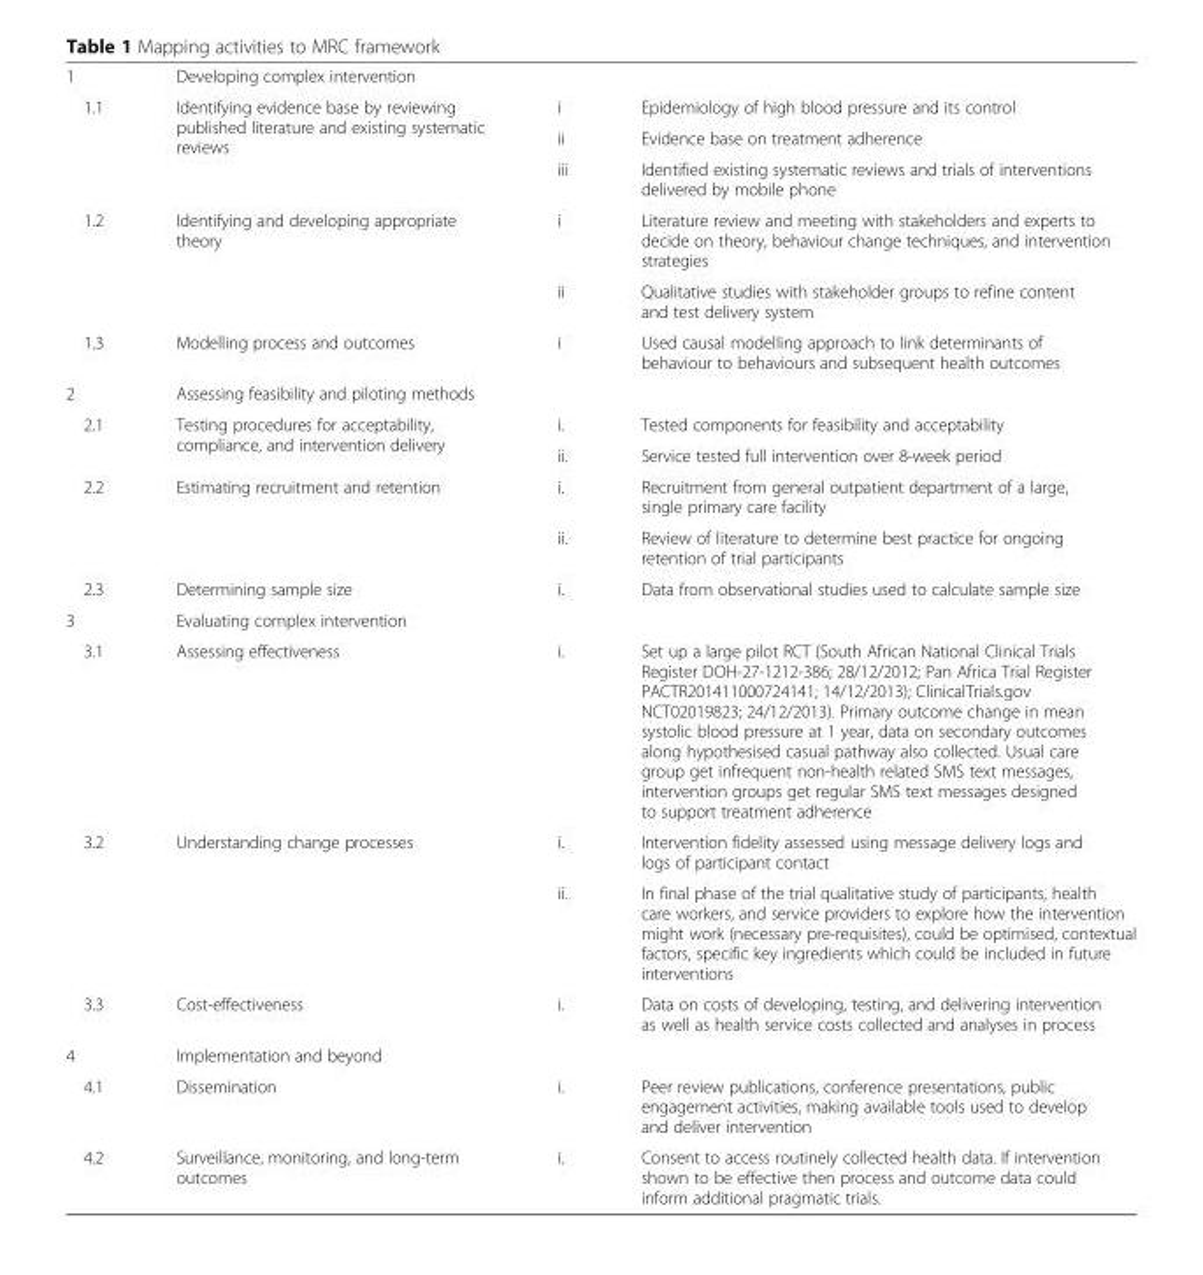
<table><tbody><tr><td>1</td><td colspan="3">Developing complex intervention</td></tr><tr><td rowspan="3">1.1</td><td rowspan="3">Identifying evidence base by reviewing published literature and existing systematic reviews</td><td>i</td><td>Epidemiology of high blood pressure and its control</td></tr><tr><td>ii</td><td>Evidence base on treatment adherence</td></tr><tr><td>iii</td><td>Identified existing systematic reviews and trials of interventions delivered by mobile phone</td></tr><tr><td rowspan="2">1.2</td><td rowspan="2">Identifying and developing appropriate theory</td><td>i</td><td>Literature review and meeting with stakeholders and experts to decide on theory, behaviour change techniques, and intervention strategies</td></tr><tr><td>ii</td><td>Qualitative studies with stakeholder groups to refine content and test delivery system</td></tr><tr><td>1.3</td><td>Modelling process and outcomes</td><td>i</td><td>Used causal modelling approach to link determinants of behaviour to behaviours and subsequent health outcomes</td></tr><tr><td>2</td><td colspan="3">Assessing feasibility and piloting methods</td></tr><tr><td rowspan="2">2.1</td><td rowspan="2">Testing procedures for acceptability, compliance, and intervention delivery</td><td>i.</td><td>Tested components for feasibility and acceptability</td></tr><tr><td>ii.</td><td>Service tested full intervention over 8-week period</td></tr><tr><td rowspan="2">2.2</td><td rowspan="2">Estimating recruitment and retention</td><td>i.</td><td>Recruitment from general outpatient department of a large, single primary care facility</td></tr><tr><td>ii.</td><td>Review of literature to determine best practice for ongoing retention of trial participants</td></tr><tr><td>2.3</td><td>Determining sample size</td><td>i.</td><td>Data from observational studies used to calculate sample size</td></tr><tr><td>3</td><td colspan="3">Evaluating complex intervention</td></tr><tr><td>3.1</td><td>Assessing effectiveness</td><td>i.</td><td>Set up a large pilot RCT (South African National Clinical Trials Register DOH-27-1212-386; 28/12/2012; Pan Africa Trial Register PACTR201411000724141; 14/12/2013); ClinicalTrials.gov NCT02019823; 24/12/2013). Primary outcome change in mean systolic blood pressure at 1 year, data on secondary outcomes along hypothesised casual pathway also collected. Usual care group get infrequent non-health related SMS text messages, intervention groups get regular SMS text messages designed to support treatment adherence</td></tr><tr><td rowspan="2">3.2</td><td rowspan="2">Understanding change processes</td><td>i.</td><td>Intervention fidelity assessed using message delivery logs and logs of participant contact</td></tr><tr><td>ii.</td><td>In final phase of the trial qualitative study of participants, health care workers, and service providers to explore how the intervention might work (necessary pre-requisites), could be optimised, contextual factors, specific key ingredients which could be included in future interventions</td></tr><tr><td>3.3</td><td>Cost-effectiveness</td><td>i.</td><td>Data on costs of developing, testing, and delivering intervention as well as health service costs collected and analyses in process</td></tr><tr><td>4</td><td colspan="3">Implementation and beyond</td></tr><tr><td>4.1</td><td>Dissemination</td><td>i.</td><td>Peer review publications, conference presentations, public engagement activities, making available tools used to develop and deliver intervention</td></tr><tr><td>4.2</td><td>Surveillance, monitoring, and long-term outcomes</td><td>i.</td><td>Consent to access routinely collected health data. If intervention shown to be effective then process and outcome data could inform additional pragmatic trials.</td></tr></tbody></table>